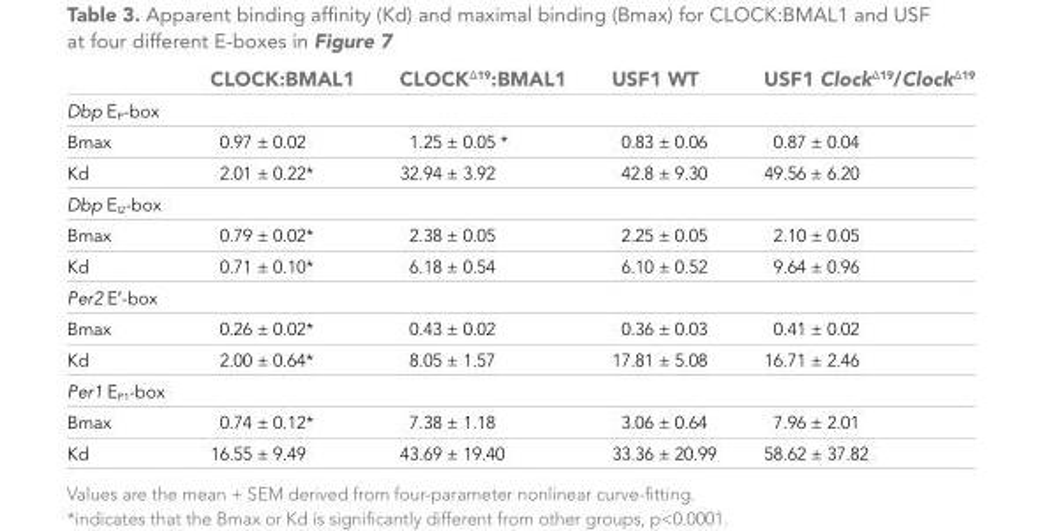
<table><thead><tr><td></td><td>CLOCK:BMAL1</td><td>CLOCK<sup>Δ19</sup>:BMAL1</td><td>USF1 WT</td><td>USF1 Clock<sup>Δ19</sup>/Clock<sup>Δ19</sup></td></tr></thead><tbody><tr><td colspan="5">Dbp E<sub>P</sub>-box</td></tr><tr><td>Bmax</td><td>0.97 ± 0.02</td><td>1.25 ± 0.05 *</td><td>0.83 ± 0.06</td><td>0.87 ± 0.04</td></tr><tr><td>Kd</td><td>2.01 ± 0.22*</td><td>32.94 ± 3.92</td><td>42.8 ± 9.30</td><td>49.56 ± 6.20</td></tr><tr><td colspan="5">Dbp E<sub>I2</sub>-box</td></tr><tr><td>Bmax</td><td>0.79 ± 0.02*</td><td>2.38 ± 0.05</td><td>2.25 ± 0.05</td><td>2.10 ± 0.05</td></tr><tr><td>Kd</td><td>0.71 ± 0.10*</td><td>6.18 ± 0.54</td><td>6.10 ± 0.52</td><td>9.64 ± 0.96</td></tr><tr><td colspan="5">Per2 E′-box</td></tr><tr><td>Bmax</td><td>0.26 ± 0.02*</td><td>0.43 ± 0.02</td><td>0.36 ± 0.03</td><td>0.41 ± 0.02</td></tr><tr><td>Kd</td><td>2.00 ± 0.64*</td><td>8.05 ± 1.57</td><td>17.81 ± 5.08</td><td>16.71 ± 2.46</td></tr><tr><td colspan="5">Per1 E<sub>P1</sub>-box</td></tr><tr><td>Bmax</td><td>0.74 ± 0.12*</td><td>7.38 ± 1.18</td><td>3.06 ± 0.64</td><td>7.96 ± 2.01</td></tr><tr><td>Kd</td><td>16.55 ± 9.49</td><td>43.69 ± 19.40</td><td>33.36 ± 20.99</td><td>58.62 ± 37.82</td></tr></tbody></table>